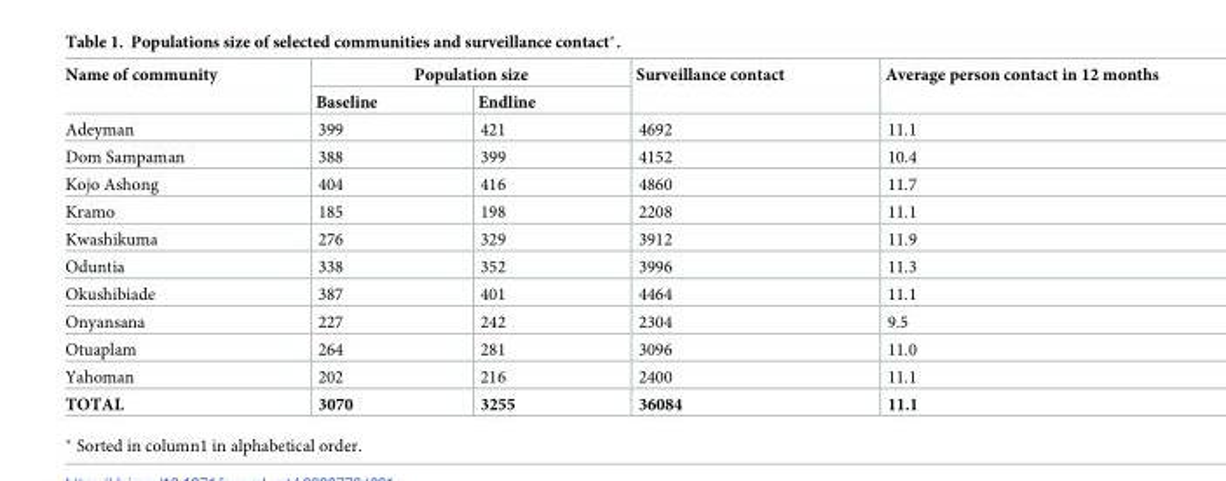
<table><thead><tr><td rowspan="2">Name of community</td><td colspan="2">Population size</td><td rowspan="2">Surveillance contact</td><td rowspan="2">Average person contact in 12 months</td></tr><tr><td>Baseline</td><td>Endline</td></tr></thead><tbody><tr><td>Adeyman</td><td>399</td><td>421</td><td>4692</td><td>11.1</td></tr><tr><td>Dom Sampaman</td><td>388</td><td>399</td><td>4152</td><td>10.4</td></tr><tr><td>Kojo Ashong</td><td>404</td><td>416</td><td>4860</td><td>11.7</td></tr><tr><td>Kramo</td><td>185</td><td>198</td><td>2208</td><td>11.1</td></tr><tr><td>Kwashikuma</td><td>276</td><td>329</td><td>3912</td><td>11.9</td></tr><tr><td>Oduntia</td><td>338</td><td>352</td><td>3996</td><td>11.3</td></tr><tr><td>Okushibiade</td><td>387</td><td>401</td><td>4464</td><td>11.1</td></tr><tr><td>Onyansana</td><td>227</td><td>242</td><td>2304</td><td>9.5</td></tr><tr><td>Otuaplam</td><td>264</td><td>281</td><td>3096</td><td>11.0</td></tr><tr><td>Yahoman</td><td>202</td><td>216</td><td>2400</td><td>11.1</td></tr><tr><td>TOTAL</td><td>3070</td><td>3255</td><td>36084</td><td>11.1</td></tr></tbody></table>